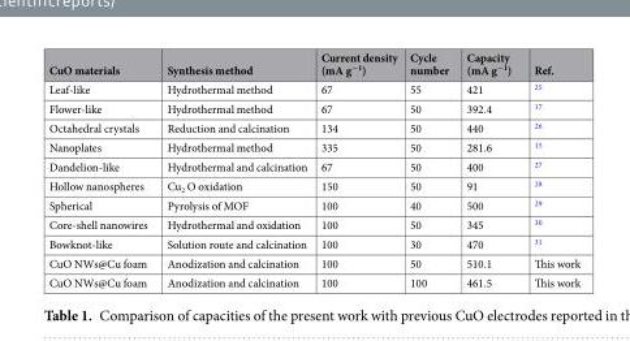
<table><thead><tr><td>CuO materials</td><td>Synthesis method</td><td>Current density (mA g<sup>−1</sup>)</td><td>Cycle number</td><td>Capacity (mA g<sup>−1</sup>)</td><td>Ref.</td></tr></thead><tbody><tr><td>Leaf-like</td><td>Hydrothermal method</td><td>67</td><td>55</td><td>421</td><td><sup>25</sup></td></tr><tr><td>Flower-like</td><td>Hydrothermal method</td><td>67</td><td>50</td><td>392.4</td><td><sup>17</sup></td></tr><tr><td>Octahedral crystals</td><td>Reduction and calcination</td><td>134</td><td>50</td><td>440</td><td><sup>26</sup></td></tr><tr><td>Nanoplates</td><td>Hydrothermal method</td><td>335</td><td>50</td><td>281.6</td><td><sup>15</sup></td></tr><tr><td>Dandelion-like</td><td>Hydrothermal and calcination</td><td>67</td><td>50</td><td>400</td><td><sup>27</sup></td></tr><tr><td>Hollow nanospheres</td><td>Cu<sub>2</sub> O oxidation</td><td>150</td><td>50</td><td>91</td><td><sup>28</sup></td></tr><tr><td>Spherical</td><td>Pyrolysis of MOF</td><td>100</td><td>40</td><td>500</td><td><sup>29</sup></td></tr><tr><td>Core-shell nanowires</td><td>Hydrothermal and oxidation</td><td>100</td><td>50</td><td>345</td><td><sup>30</sup></td></tr><tr><td>Bowknot-like</td><td>Solution route and calcination</td><td>100</td><td>30</td><td>470</td><td><sup>31</sup></td></tr><tr><td>CuO NWs@Cu foam</td><td>Anodization and calcination</td><td>100</td><td>50</td><td>510.1</td><td>This work</td></tr><tr><td>CuO NWs@Cu foam</td><td>Anodization and calcination</td><td>100</td><td>100</td><td>461.5</td><td>This work</td></tr></tbody></table>